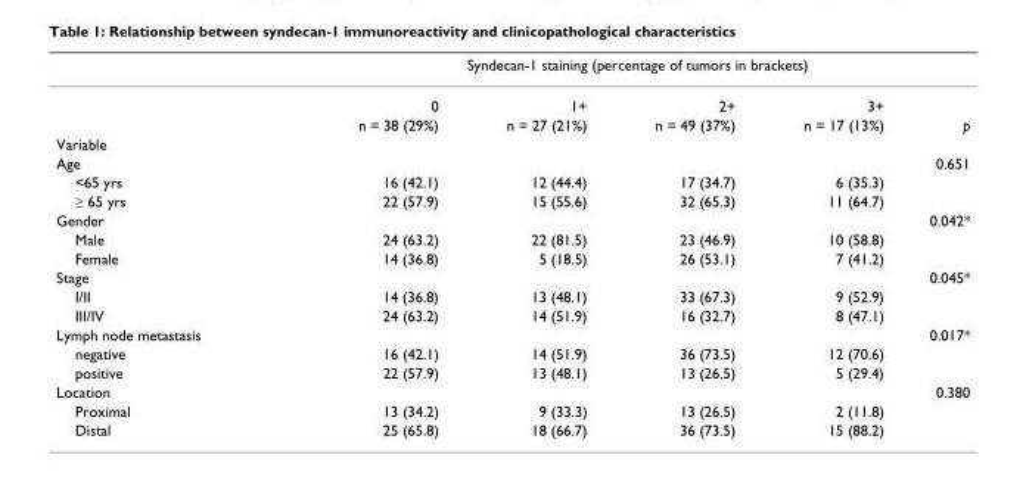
<table><thead><tr><td rowspan="2"></td><td colspan="5">Syndecan-1 staining (percentage of tumors in brackets)</td></tr><tr><td>0</td><td>1+</td><td>2+</td><td>3+</td><td></td></tr></thead><tbody><tr><td></td><td>n = 38 (29%)</td><td>n = 27 (21%)</td><td>n = 49 (37%)</td><td>n = 17 (13%)</td><td>p</td></tr><tr><td colspan="6">Variable</td></tr><tr><td>Age</td><td></td><td></td><td></td><td></td><td>0.651</td></tr><tr><td>&lt;65 yrs</td><td>16 (42.1)</td><td>12 (44.4)</td><td>17 (34.7)</td><td>6 (35.3)</td><td></td></tr><tr><td>≥ 65 yrs</td><td>22 (57.9)</td><td>15 (55.6)</td><td>32 (65.3)</td><td>11 (64.7)</td><td></td></tr><tr><td>Gender</td><td></td><td></td><td></td><td></td><td>0.042*</td></tr><tr><td>Male</td><td>24 (63.2)</td><td>22 (81.5)</td><td>23 (46.9)</td><td>10 (58.8)</td><td></td></tr><tr><td>Female</td><td>14 (36.8)</td><td>5 (18.5)</td><td>26 (53.1)</td><td>7 (41.2)</td><td></td></tr><tr><td>Stage</td><td></td><td></td><td></td><td></td><td>0.045*</td></tr><tr><td>I/II</td><td>14 (36.8)</td><td>13 (48.1)</td><td>33 (67.3)</td><td>9 (52.9)</td><td></td></tr><tr><td>III/IV</td><td>24 (63.2)</td><td>14 (51.9)</td><td>16 (32.7)</td><td>8 (47.1)</td><td></td></tr><tr><td>Lymph node metastasis</td><td></td><td></td><td></td><td></td><td>0.017*</td></tr><tr><td>negative</td><td>16 (42.1)</td><td>14 (51.9)</td><td>36 (73.5)</td><td>12 (70.6)</td><td></td></tr><tr><td>positive</td><td>22 (57.9)</td><td>13 (48.1)</td><td>13 (26.5)</td><td>5 (29.4)</td><td></td></tr><tr><td>Location</td><td></td><td></td><td></td><td></td><td>0.380</td></tr><tr><td>Proximal</td><td>13 (34.2)</td><td>9 (33.3)</td><td>13 (26.5)</td><td>2 (11.8)</td><td></td></tr><tr><td>Distal</td><td>25 (65.8)</td><td>18 (66.7)</td><td>36 (73.5)</td><td>15 (88.2)</td><td></td></tr></tbody></table>